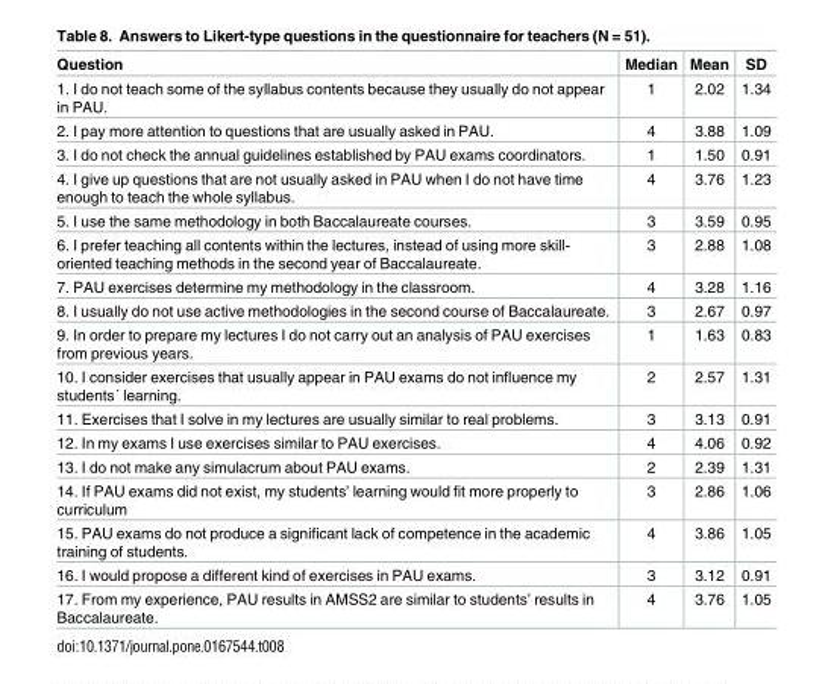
<table><thead><tr><td>Question</td><td>Median</td><td>Mean</td><td>SD</td></tr></thead><tbody><tr><td>1. I do not teach some of the syllabus contents because they usually do not appear in PAU.</td><td>1</td><td>2.02</td><td>1.34</td></tr><tr><td>2. I pay more attention to questions that are usually asked in PAU.</td><td>4</td><td>3.88</td><td>1.09</td></tr><tr><td>3. I do not check the annual guidelines established by PAU exams coordinators.</td><td>1</td><td>1.50</td><td>0.91</td></tr><tr><td>4. I give up questions that are not usually asked in PAU when I do not have time enough to teach the whole syllabus.</td><td>4</td><td>3.76</td><td>1.23</td></tr><tr><td>5. I use the same methodology in both Baccalaureate courses.</td><td>3</td><td>3.59</td><td>0.95</td></tr><tr><td>6. I prefer teaching all contents within the lectures, instead of using more skill- oriented teaching methods in the second year of Baccalaureate.</td><td>3</td><td>2.88</td><td>1.08</td></tr><tr><td>7. PAU exercises determine my methodology in the classroom.</td><td>4</td><td>3.28</td><td>1.16</td></tr><tr><td>8. I usually do not use active methodologies in the second course of Baccalaureate.</td><td>3</td><td>2.67</td><td>0.97</td></tr><tr><td>9. In order to prepare my lectures I do not carry out an analysis of PAU exercises from previous years.</td><td>1</td><td>1.63</td><td>0.83</td></tr><tr><td>10. I consider exercises that usually appear in PAU exams do not influence my students´ learning.</td><td>2</td><td>2.57</td><td>1.31</td></tr><tr><td>11. Exercises that I solve in my lectures are usually similar to real problems.</td><td>3</td><td>3.13</td><td>0.91</td></tr><tr><td>12. In my exams I use exercises similar to PAU exercises.</td><td>4</td><td>4.06</td><td>0.92</td></tr><tr><td>13. I do not make any simulacrum about PAU exams.</td><td>2</td><td>2.39</td><td>1.31</td></tr><tr><td>14. If PAU exams did not exist, my students’ learning would fit more properly to curriculum</td><td>3</td><td>2.86</td><td>1.06</td></tr><tr><td>15. PAU exams do not produce a significant lack of competence in the academic training of students.</td><td>4</td><td>3.86</td><td>1.05</td></tr><tr><td>16. I would propose a different kind of exercises in PAU exams.</td><td>3</td><td>3.12</td><td>0.91</td></tr><tr><td>17. From my experience, PAU results in AMSS2 are similar to students’ results in Baccalaureate.</td><td>4</td><td>3.76</td><td>1.05</td></tr></tbody></table>